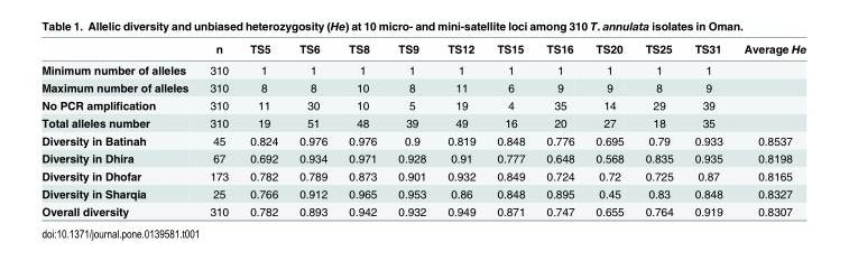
<table><thead><tr><td></td><td>n</td><td>TS5</td><td>TS6</td><td>TS8</td><td>TS9</td><td>TS12</td><td>TS15</td><td>TS16</td><td>TS20</td><td>TS25</td><td>TS31</td><td>Average He</td></tr></thead><tbody><tr><td>Minimum number of alleles</td><td>310</td><td>1</td><td>1</td><td>1</td><td>1</td><td>1</td><td>1</td><td>1</td><td>1</td><td>1</td><td>1</td><td></td></tr><tr><td>Maximum number of alleles</td><td>310</td><td>8</td><td>8</td><td>10</td><td>8</td><td>11</td><td>6</td><td>9</td><td>9</td><td>8</td><td>9</td><td></td></tr><tr><td>No PCR amplification</td><td>310</td><td>11</td><td>30</td><td>10</td><td>5</td><td>19</td><td>4</td><td>35</td><td>14</td><td>29</td><td>39</td><td></td></tr><tr><td>Total alleles number</td><td>310</td><td>19</td><td>51</td><td>48</td><td>39</td><td>49</td><td>16</td><td>20</td><td>27</td><td>18</td><td>35</td><td></td></tr><tr><td>Diversity in Batinah</td><td>45</td><td>0.824</td><td>0.976</td><td>0.976</td><td>0.9</td><td>0.819</td><td>0.848</td><td>0.776</td><td>0.695</td><td>0.79</td><td>0.933</td><td>0.8537</td></tr><tr><td>Diversity in Dhira</td><td>67</td><td>0.692</td><td>0.934</td><td>0.971</td><td>0.928</td><td>0.91</td><td>0.777</td><td>0.648</td><td>0.568</td><td>0.835</td><td>0.935</td><td>0.8198</td></tr><tr><td>Diversity in Dhofar</td><td>173</td><td>0.782</td><td>0.789</td><td>0.873</td><td>0.901</td><td>0.932</td><td>0.849</td><td>0.724</td><td>0.72</td><td>0.725</td><td>0.87</td><td>0.8165</td></tr><tr><td>Diversity in Sharqia</td><td>25</td><td>0.766</td><td>0.912</td><td>0.965</td><td>0.953</td><td>0.86</td><td>0.848</td><td>0.895</td><td>0.45</td><td>0.83</td><td>0.848</td><td>0.8327</td></tr><tr><td>Overall diversity</td><td>310</td><td>0.782</td><td>0.893</td><td>0.942</td><td>0.932</td><td>0.949</td><td>0.871</td><td>0.747</td><td>0.655</td><td>0.764</td><td>0.919</td><td>0.8307</td></tr></tbody></table>